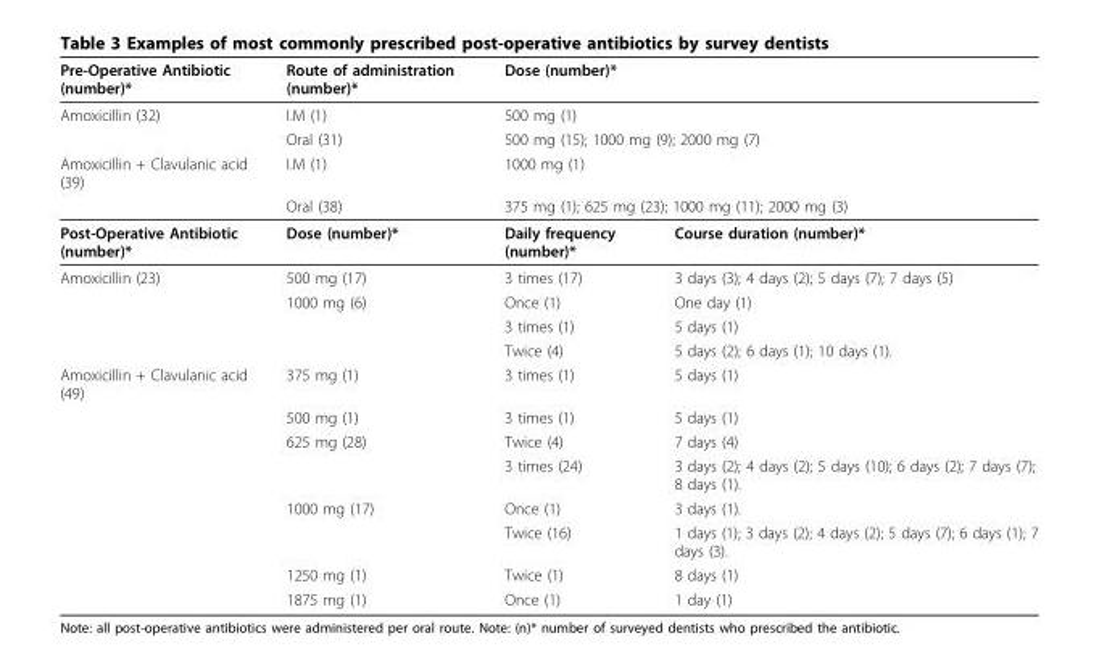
<table><thead><tr><td>Pre-Operative Antibiotic (number)*</td><td>Route of administration (number)*</td><td colspan="2">Dose (number)*</td></tr></thead><tbody><tr><td rowspan="2">Amoxicillin (32)</td><td>I.M (1)</td><td colspan="2">500 mg (1)</td></tr><tr><td>Oral (31)</td><td colspan="2">500 mg (15); 1000 mg (9); 2000 mg (7)</td></tr><tr><td rowspan="2">Amoxicillin + Clavulanic acid (39)</td><td>I.M (1)</td><td colspan="2">1000 mg (1)</td></tr><tr><td>Oral (38)</td><td colspan="2">375 mg (1); 625 mg (23); 1000 mg (11); 2000 mg (3)</td></tr><tr><td>Post-Operative Antibiotic (number)*</td><td>Dose (number)*</td><td>Daily frequency (number)*</td><td>Course duration (number)*</td></tr><tr><td rowspan="4">Amoxicillin (23)</td><td>500 mg (17)</td><td>3 times (17)</td><td>3 days (3); 4 days (2); 5 days (7); 7 days (5)</td></tr><tr><td>1000 mg (6)</td><td>Once (1)</td><td>One day (1)</td></tr><tr><td></td><td>3 times (1)</td><td>5 days (1)</td></tr><tr><td></td><td>Twice (4)</td><td>5 days (2); 6 days (1); 10 days (1).</td></tr><tr><td rowspan="8">Amoxicillin + Clavulanic acid (49)</td><td>375 mg (1)</td><td>3 times (1)</td><td>5 days (1)</td></tr><tr><td>500 mg (1)</td><td>3 times (1)</td><td>5 days (1)</td></tr><tr><td>625 mg (28)</td><td>Twice (4)</td><td>7 days (4)</td></tr><tr><td></td><td>3 times (24)</td><td>3 days (2); 4 days (2); 5 days (10); 6 days (2); 7 days (7); 8 days (1).</td></tr><tr><td>1000 mg (17)</td><td>Once (1)</td><td>3 days (1).</td></tr><tr><td></td><td>Twice (16)</td><td>1 days (1); 3 days (2); 4 days (2); 5 days (7); 6 days (1); 7 days (3).</td></tr><tr><td>1250 mg (1)</td><td>Twice (1)</td><td>8 days (1)</td></tr><tr><td>1875 mg (1)</td><td>Once (1)</td><td>1 day (1)</td></tr></tbody></table>